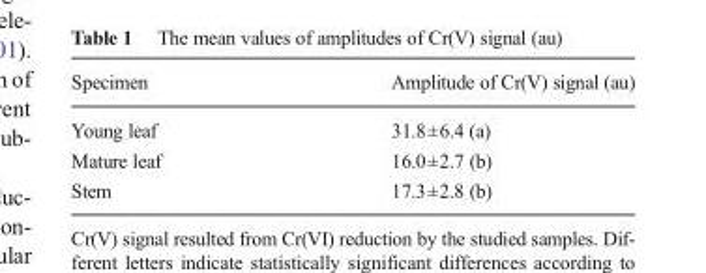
<table><thead><tr><td>Specimen</td><td>Amplitude of Cr(V) signal (au)</td></tr></thead><tbody><tr><td>Young leaf</td><td>31.8±6.4 (a)</td></tr><tr><td>Mature leaf</td><td>16.0±2.7 (b)</td></tr><tr><td>Stem</td><td>17.3±2.8 (b)</td></tr></tbody></table>